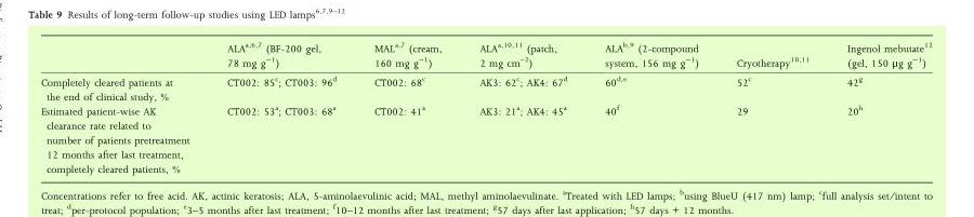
<table><thead><tr><td></td><td>ALA<sup>a</sup>,<sup>6</sup>,<sup>7</sup> (BF-200 gel, 78 mg g<sup>−1</sup>)</td><td>MAL<sup>a</sup>,<sup>7</sup> (cream, 160 mg g<sup>−1</sup>)</td><td>ALA<sup>a</sup>,<sup>10</sup>,<sup>11</sup> (patch, 2 mg cm<sup>–2</sup>)</td><td>ALA<sup>b</sup>,<sup>9</sup> (2-compound system, 156 mg g<sup>−1</sup>)</td><td>Cryotherapy<sup>10</sup>,<sup>11</sup></td><td>Ingenol mebutate<sup>12</sup> (gel, 150 μg g<sup>−1</sup>)</td></tr></thead><tbody><tr><td>Completely cleared patients at the end of clinical study, %</td><td>CT002: 85<sup>c</sup>; CT003: 96<sup>d</sup></td><td>CT002: 68<sup>c</sup></td><td>AK3: 62<sup>c</sup>; AK4: 67<sup>d</sup></td><td>60<sup>d</sup>,<sup>e</sup></td><td>52<sup>c</sup></td><td>42<sup>g</sup></td></tr><tr><td>Estimated patient-wise AK clearance rate related to number of patients pretreatment 12 months after last treatment, completely cleared patients, %</td><td>CT002: 53<sup>a</sup>; CT003: 68<sup>a</sup></td><td>CT002: 41<sup>a</sup></td><td>AK3: 21<sup>a</sup>; AK4: 45<sup>a</sup></td><td>40<sup>f</sup></td><td>29</td><td>20<sup>h</sup></td></tr></tbody></table>